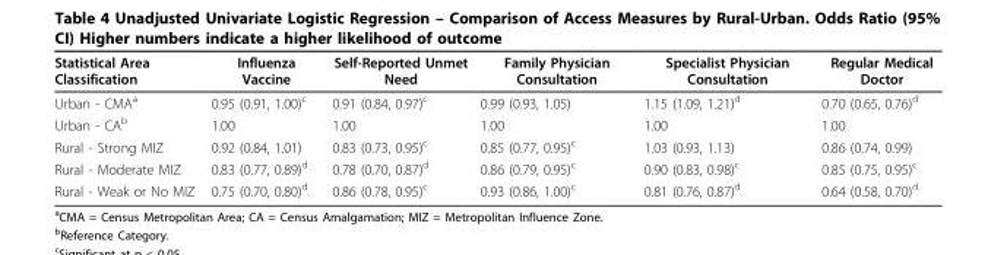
<table><thead><tr><td>Statistical Area Classification</td><td>Influenza Vaccine</td><td>Self-Reported Unmet Need</td><td>Family Physician Consultation</td><td>Specialist Physician Consultation</td><td>Regular Medical Doctor</td></tr></thead><tbody><tr><td>Urban - CMA<sup>a</sup></td><td>0.95 (0.91, 1.00)<sup>c</sup></td><td>0.91 (0.84, 0.97)<sup>c</sup></td><td>0.99 (0.93, 1.05)</td><td>1.15 (1.09, 1.21)<sup>d</sup></td><td>0.70 (0.65, 0.76)<sup>d</sup></td></tr><tr><td>Urban - CA<sup>b</sup></td><td>1.00</td><td>1.00</td><td>1.00</td><td>1.00</td><td>1.00</td></tr><tr><td>Rural - Strong MIZ</td><td>0.92 (0.84, 1.01)</td><td>0.83 (0.73, 0.95)<sup>c</sup></td><td>0.85 (0.77, 0.95)<sup>c</sup></td><td>1.03 (0.93, 1.13)</td><td>0.86 (0.74, 0.99)</td></tr><tr><td>Rural - Moderate MIZ</td><td>0.83 (0.77, 0.89)<sup>d</sup></td><td>0.78 (0.70, 0.87)<sup>d</sup></td><td>0.86 (0.79, 0.95)<sup>c</sup></td><td>0.90 (0.83, 0.98)<sup>c</sup></td><td>0.85 (0.75, 0.95)<sup>c</sup></td></tr><tr><td>Rural - Weak or No MIZ</td><td>0.75 (0.70, 0.80)<sup>d</sup></td><td>0.86 (0.78, 0.95)<sup>c</sup></td><td>0.93 (0.86, 1.00)<sup>c</sup></td><td>0.81 (0.76, 0.87)<sup>d</sup></td><td>0.64 (0.58, 0.70)<sup>d</sup></td></tr></tbody></table>